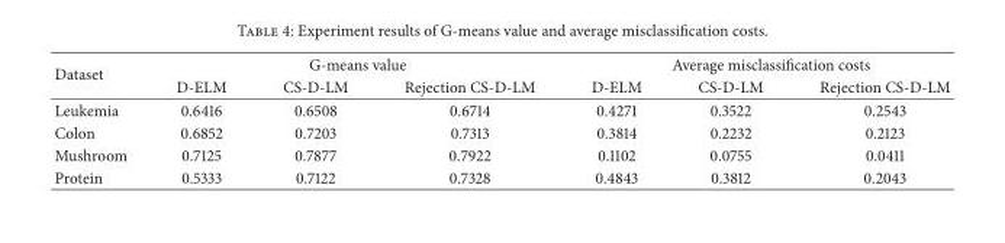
<table><thead><tr><td rowspan="2">Dataset</td><td colspan="3">G-means value</td><td colspan="3">Average misclassification costs</td></tr><tr><td>D-ELM</td><td>CS-D-LM</td><td>Rejection CS-D-LM</td><td>D-ELM</td><td>CS-D-LM</td><td>Rejection CS-D-LM</td></tr></thead><tbody><tr><td>Leukemia</td><td>0.6416</td><td>0.6508</td><td>0.6714</td><td>0.4271</td><td>0.3522</td><td>0.2543</td></tr><tr><td>Colon</td><td>0.6852</td><td>0.7203</td><td>0.7313</td><td>0.3814</td><td>0.2232</td><td>0.2123</td></tr><tr><td>Mushroom</td><td>0.7125</td><td>0.7877</td><td>0.7922</td><td>0.1102</td><td>0.0755</td><td>0.0411</td></tr><tr><td>Protein</td><td>0.5333</td><td>0.7122</td><td>0.7328</td><td>0.4843</td><td>0.3812</td><td>0.2043</td></tr></tbody></table>